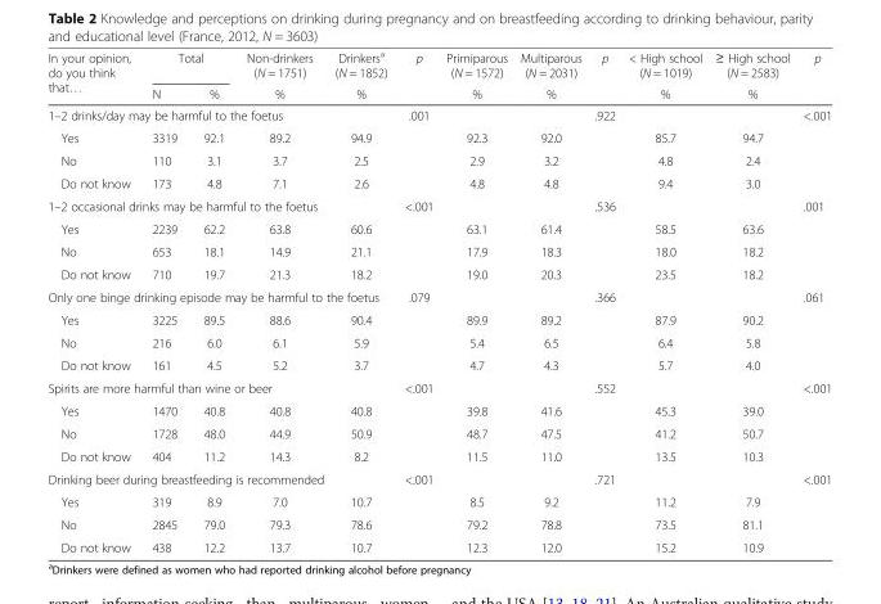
<table><thead><tr><td rowspan="2">In your opinion, do you think that…</td><td colspan="2">Total</td><td rowspan="2">Non-drinkers (N = 1751) %</td><td rowspan="2">Drinkers<sup>a</sup> (N = 1852) %</td><td rowspan="2">p</td><td rowspan="2">Primiparous (N = 1572) %</td><td rowspan="2">Multiparous (N = 2031) %</td><td rowspan="2">p</td><td rowspan="2">&lt; High school (N = 1019) %</td><td rowspan="2">≥ High school (N = 2583) %</td><td rowspan="2">p</td></tr><tr><td>N</td><td>%</td></tr></thead><tbody><tr><td colspan="5">1–2 drinks/day may be harmful to the foetus</td><td>.001</td><td></td><td></td><td>.922</td><td></td><td></td><td>&lt;.001</td></tr><tr><td>Yes</td><td>3319</td><td>92.1</td><td>89.2</td><td>94.9</td><td></td><td>92.3</td><td>92.0</td><td></td><td>85.7</td><td>94.7</td><td></td></tr><tr><td>No</td><td>110</td><td>3.1</td><td>3.7</td><td>2.5</td><td></td><td>2.9</td><td>3.2</td><td></td><td>4.8</td><td>2.4</td><td></td></tr><tr><td>Do not know</td><td>173</td><td>4.8</td><td>7.1</td><td>2.6</td><td></td><td>4.8</td><td>4.8</td><td></td><td>9.4</td><td>3.0</td><td></td></tr><tr><td colspan="5">1–2 occasional drinks may be harmful to the foetus</td><td>&lt;.001</td><td></td><td></td><td>.536</td><td></td><td></td><td>.001</td></tr><tr><td>Yes</td><td>2239</td><td>62.2</td><td>63.8</td><td>60.6</td><td></td><td>63.1</td><td>61.4</td><td></td><td>58.5</td><td>63.6</td><td></td></tr><tr><td>No</td><td>653</td><td>18.1</td><td>14.9</td><td>21.1</td><td></td><td>17.9</td><td>18.3</td><td></td><td>18.0</td><td>18.2</td><td></td></tr><tr><td>Do not know</td><td>710</td><td>19.7</td><td>21.3</td><td>18.2</td><td></td><td>19.0</td><td>20.3</td><td></td><td>23.5</td><td>18.2</td><td></td></tr><tr><td colspan="5">Only one binge drinking episode may be harmful to the foetus</td><td>.079</td><td></td><td></td><td>.366</td><td></td><td></td><td>.061</td></tr><tr><td>Yes</td><td>3225</td><td>89.5</td><td>88.6</td><td>90.4</td><td></td><td>89.9</td><td>89.2</td><td></td><td>87.9</td><td>90.2</td><td></td></tr><tr><td>No</td><td>216</td><td>6.0</td><td>6.1</td><td>5.9</td><td></td><td>5.4</td><td>6.5</td><td></td><td>6.4</td><td>5.8</td><td></td></tr><tr><td>Do not know</td><td>161</td><td>4.5</td><td>5.2</td><td>3.7</td><td></td><td>4.7</td><td>4.3</td><td></td><td>5.7</td><td>4.0</td><td></td></tr><tr><td colspan="5">Spirits are more harmful than wine or beer</td><td>&lt;.001</td><td></td><td></td><td>.552</td><td></td><td></td><td>&lt;.001</td></tr><tr><td>Yes</td><td>1470</td><td>40.8</td><td>40.8</td><td>40.8</td><td></td><td>39.8</td><td>41.6</td><td></td><td>45.3</td><td>39.0</td><td></td></tr><tr><td>No</td><td>1728</td><td>48.0</td><td>44.9</td><td>50.9</td><td></td><td>48.7</td><td>47.5</td><td></td><td>41.2</td><td>50.7</td><td></td></tr><tr><td>Do not know</td><td>404</td><td>11.2</td><td>14.3</td><td>8.2</td><td></td><td>11.5</td><td>11.0</td><td></td><td>13.5</td><td>10.3</td><td></td></tr><tr><td colspan="5">Drinking beer during breastfeeding is recommended</td><td>&lt;.001</td><td></td><td></td><td>.721</td><td></td><td></td><td>&lt;.001</td></tr><tr><td>Yes</td><td>319</td><td>8.9</td><td>7.0</td><td>10.7</td><td></td><td>8.5</td><td>9.2</td><td></td><td>11.2</td><td>7.9</td><td></td></tr><tr><td>No</td><td>2845</td><td>79.0</td><td>79.3</td><td>78.6</td><td></td><td>79.2</td><td>78.8</td><td></td><td>73.5</td><td>81.1</td><td></td></tr><tr><td>Do not know</td><td>438</td><td>12.2</td><td>13.7</td><td>10.7</td><td></td><td>12.3</td><td>12.0</td><td></td><td>15.2</td><td>10.9</td><td></td></tr></tbody></table>